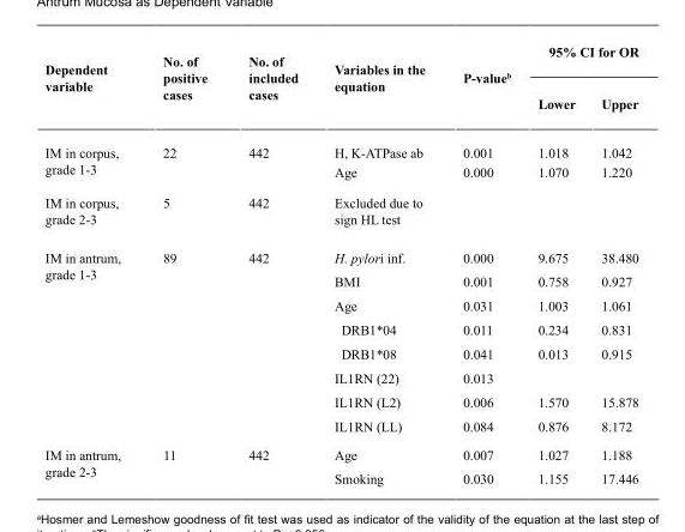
<table><thead><tr><td rowspan="2">Dependent variable</td><td rowspan="2">No. of positive cases</td><td rowspan="2">No. of included cases</td><td rowspan="2">Variables in the equation</td><td rowspan="2">P-value<sup>b</sup></td><td colspan="2">95% CI for OR</td></tr><tr><td>Lower</td><td>Upper</td></tr></thead><tbody><tr><td rowspan="2">IM in corpus, grade 1-3</td><td rowspan="2">22</td><td rowspan="2">442</td><td>H, K-ATPase ab</td><td>0.001</td><td>1.018</td><td>1.042</td></tr><tr><td>Age</td><td>0.000</td><td>1.070</td><td>1.220</td></tr><tr><td>IM in corpus, grade 2-3</td><td>5</td><td>442</td><td>Excluded due to sign HL test</td><td></td><td></td><td></td></tr><tr><td rowspan="8">IM in antrum, grade 1-3</td><td rowspan="8">89</td><td rowspan="8">442</td><td>H. pylori inf.</td><td>0.000</td><td>9.675</td><td>38.480</td></tr><tr><td>BMI</td><td>0.001</td><td>0.758</td><td>0.927</td></tr><tr><td>Age</td><td>0.031</td><td>1.003</td><td>1.061</td></tr><tr><td>DRB1*04</td><td>0.011</td><td>0.234</td><td>0.831</td></tr><tr><td>DRB1*08</td><td>0.041</td><td>0.013</td><td>0.915</td></tr><tr><td>IL1RN (22)</td><td>0.013</td><td></td><td></td></tr><tr><td>IL1RN (L2)</td><td>0.006</td><td>1.570</td><td>15.878</td></tr><tr><td>IL1RN (LL)</td><td>0.084</td><td>0.876</td><td>8.172</td></tr><tr><td rowspan="2">IM in antrum, grade 2-3</td><td rowspan="2">11</td><td rowspan="2">442</td><td>Age</td><td>0.007</td><td>1.027</td><td>1.188</td></tr><tr><td>Smoking</td><td>0.030</td><td>1.155</td><td>17.446</td></tr></tbody></table>